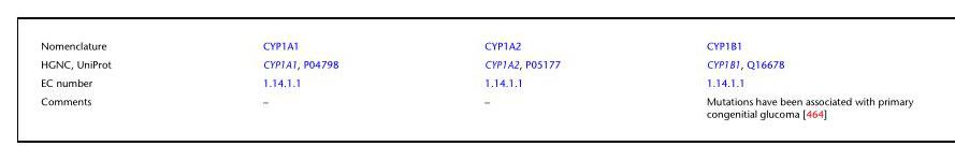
<table><tbody><tr><td>Nomenclature</td><td>CYP1A1</td><td>CYP1A2</td><td>CYP1B1</td></tr><tr><td>HGNC, UniProt</td><td>CYP1A1, P04798</td><td>CYP1A2, P05177</td><td>CYP1B1, Q16678</td></tr><tr><td>EC number</td><td>1.14.1.1</td><td>1.14.1.1</td><td>1.14.1.1</td></tr><tr><td>Comments</td><td>–</td><td>–</td><td>Mutations have been associated with primary congenitial glucoma [464]</td></tr></tbody></table>